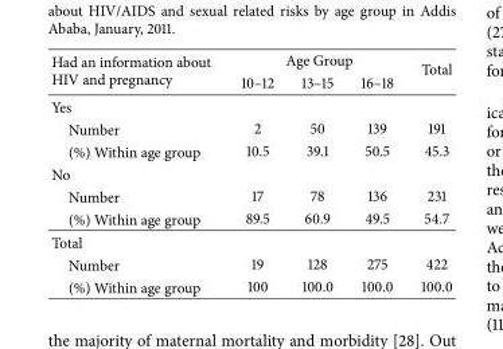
<table><thead><tr><td rowspan="2">Had an information about HIV and pregnancy</td><td colspan="3">Age Group</td><td rowspan="2">Total</td></tr><tr><td>10–12</td><td>13–15</td><td>16–18</td></tr></thead><tbody><tr><td colspan="5">Yes</td></tr><tr><td>Number</td><td>2</td><td>50</td><td>139</td><td>191</td></tr><tr><td>(%) Within age group</td><td>10.5</td><td>39.1</td><td>50.5</td><td>45.3</td></tr><tr><td colspan="5">No</td></tr><tr><td>Number</td><td>17</td><td>78</td><td>136</td><td>231</td></tr><tr><td>(%) Within age group</td><td>89.5</td><td>60.9</td><td>49.5</td><td>54.7</td></tr><tr><td colspan="5">Total</td></tr><tr><td>Number</td><td>19</td><td>128</td><td>275</td><td>422</td></tr><tr><td>(%) Within age group</td><td>100</td><td>100.0</td><td>100.0</td><td>100.0</td></tr></tbody></table>